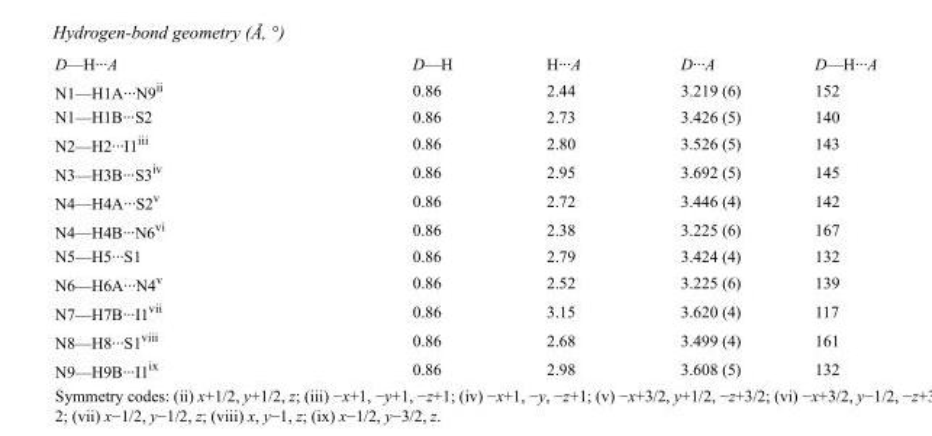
<table><tbody><tr><td>D—H···A</td><td>D—H</td><td>H···A</td><td>D···A</td><td>D—H···A</td></tr><tr><td>N1—H1A···N9<sup>ii</sup></td><td>0.86</td><td>2.44</td><td>3.219 (6)</td><td>152</td></tr><tr><td>N1—H1B···S2</td><td>0.86</td><td>2.73</td><td>3.426 (5)</td><td>140</td></tr><tr><td>N2—H2···I1<sup>iii</sup></td><td>0.86</td><td>2.80</td><td>3.526 (5)</td><td>143</td></tr><tr><td>N3—H3B···S3<sup>iv</sup></td><td>0.86</td><td>2.95</td><td>3.692 (5)</td><td>145</td></tr><tr><td>N4—H4A···S2<sup>v</sup></td><td>0.86</td><td>2.72</td><td>3.446 (4)</td><td>142</td></tr><tr><td>N4—H4B···N6<sup>vi</sup></td><td>0.86</td><td>2.38</td><td>3.225 (6)</td><td>167</td></tr><tr><td>N5—H5···S1</td><td>0.86</td><td>2.79</td><td>3.424 (4)</td><td>132</td></tr><tr><td>N6—H6A···N4<sup>v</sup></td><td>0.86</td><td>2.52</td><td>3.225 (6)</td><td>139</td></tr><tr><td>N7—H7B···I1<sup>vii</sup></td><td>0.86</td><td>3.15</td><td>3.620 (4)</td><td>117</td></tr><tr><td>N8—H8···S1<sup>viii</sup></td><td>0.86</td><td>2.68</td><td>3.499 (4)</td><td>161</td></tr><tr><td>N9—H9B···I1<sup>ix</sup></td><td>0.86</td><td>2.98</td><td>3.608 (5)</td><td>132</td></tr></tbody></table>